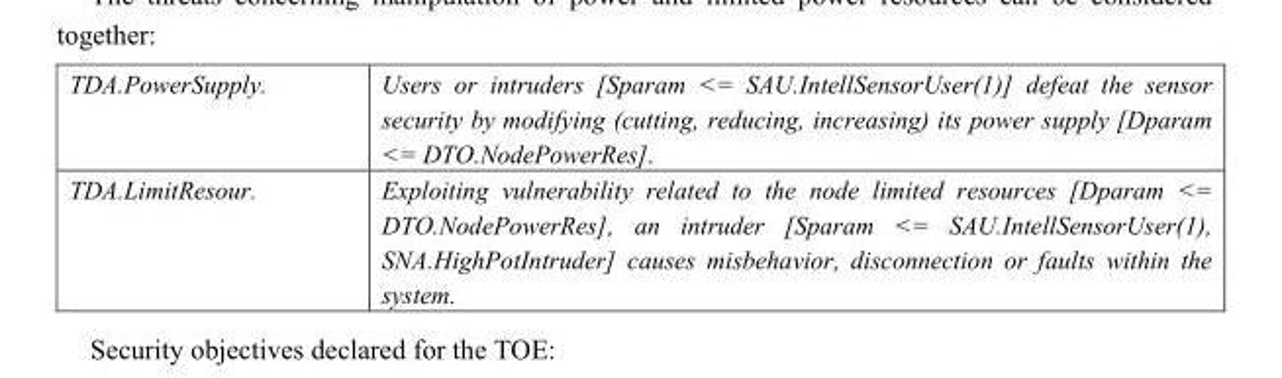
<table><tbody><tr><td>TDA.PowerSupply.</td><td>Users or intruders [Sparam &lt;= SAU.IntellSensorUser(1)] defeat the sensor security by modifying (cutting, reducing, increasing) its power supply [Dparam &lt;= DTO.NodePowerRes].</td></tr><tr><td>TDA.LimitResour.</td><td>Exploiting vulnerability related to the node limited resources [Dparam &lt;= DTO.NodePowerRes], an intruder [Sparam &lt;= SAU.IntellSensorUser(1), SNA.HighPotIntruder] causes misbehavior, disconnection or faults within the system.</td></tr></tbody></table>